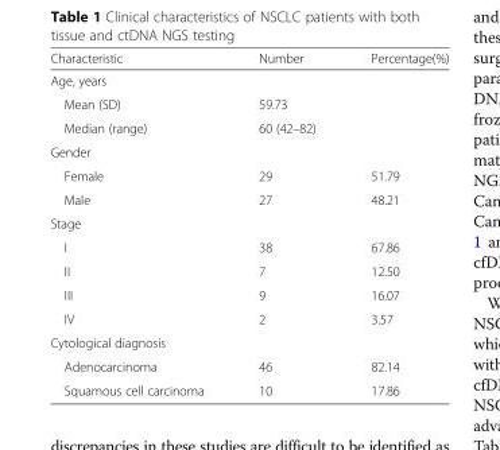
<table><thead><tr><td>Characteristic</td><td>Number</td><td>Percentage(%)</td></tr></thead><tbody><tr><td colspan="3">Age, years</td></tr><tr><td>Mean (SD)</td><td>59.73</td><td rowspan="2"></td></tr><tr><td>Median (range)</td><td>60 (42–82)</td></tr><tr><td colspan="3">Gender</td></tr><tr><td>Female</td><td>29</td><td>51.79</td></tr><tr><td>Male</td><td>27</td><td>48.21</td></tr><tr><td colspan="3">Stage</td></tr><tr><td>I</td><td>38</td><td>67.86</td></tr><tr><td>II</td><td>7</td><td>12.50</td></tr><tr><td>III</td><td>9</td><td>16.07</td></tr><tr><td>IV</td><td>2</td><td>3.57</td></tr><tr><td colspan="3">Cytological diagnosis</td></tr><tr><td>Adenocarcinoma</td><td>46</td><td>82.14</td></tr><tr><td>Squamous cell carcinoma</td><td>10</td><td>17.86</td></tr></tbody></table>